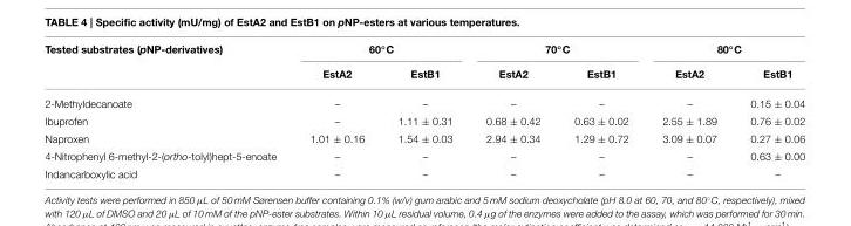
<table><thead><tr><td rowspan="2">Tested substrates (pNP-derivatives)</td><td colspan="2">60◦C</td><td colspan="2">70◦C</td><td colspan="2">80◦C</td></tr><tr><td>EstA2</td><td>EstB1</td><td>EstA2</td><td>EstB1</td><td>EstA2</td><td>EstB1</td></tr></thead><tbody><tr><td>2-Methyldecanoate</td><td>–</td><td>–</td><td>–</td><td>–</td><td>–</td><td>0.15 ± 0.04</td></tr><tr><td>Ibuprofen</td><td>–</td><td>1.11 ± 0.31</td><td>0.68 ± 0.42</td><td>0.63 ± 0.02</td><td>2.55 ± 1.89</td><td>0.76 ± 0.02</td></tr><tr><td>Naproxen</td><td>1.01 ± 0.16</td><td>1.54 ± 0.03</td><td>2.94 ± 0.34</td><td>1.29 ± 0.72</td><td>3.09 ± 0.07</td><td>0.27 ± 0.06</td></tr><tr><td>4-Nitrophenyl 6-methyl-2-(ortho-tolyl)hept-5-enoate</td><td>–</td><td>–</td><td>–</td><td>–</td><td>–</td><td>0.63 ± 0.00</td></tr><tr><td>Indancarboxylic acid</td><td>–</td><td>–</td><td>–</td><td>–</td><td>–</td><td>–</td></tr></tbody></table>